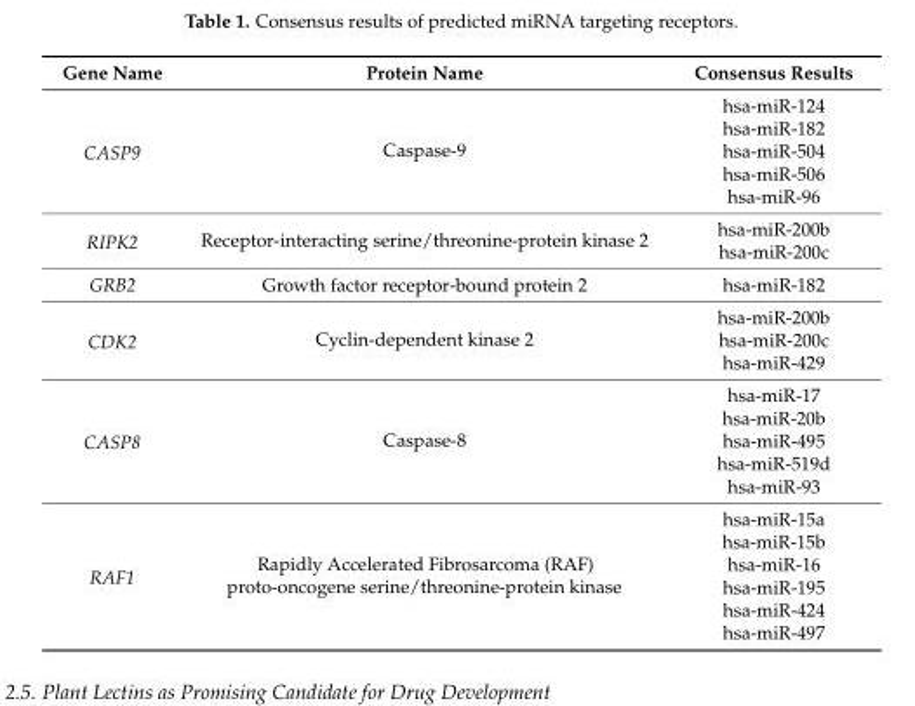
<table><thead><tr><td>Gene Name</td><td>Protein Name</td><td>Consensus Results</td></tr></thead><tbody><tr><td rowspan="5">CASP9</td><td rowspan="5">Caspase-9</td><td>hsa-miR-124</td></tr><tr><td>hsa-miR-182</td></tr><tr><td>hsa-miR-504</td></tr><tr><td>hsa-miR-506</td></tr><tr><td>hsa-miR-96</td></tr><tr><td rowspan="2">RIPK2</td><td rowspan="2">Receptor-interacting serine/threonine-protein kinase 2</td><td>hsa-miR-200b</td></tr><tr><td>hsa-miR-200c</td></tr><tr><td>GRB2</td><td>Growth factor receptor-bound protein 2</td><td>hsa-miR-182</td></tr><tr><td rowspan="3">CDK2</td><td rowspan="3">Cyclin-dependent kinase 2</td><td>hsa-miR-200b</td></tr><tr><td>hsa-miR-200c</td></tr><tr><td>hsa-miR-429</td></tr><tr><td rowspan="5">CASP8</td><td rowspan="5">Caspase-8</td><td>hsa-miR-17</td></tr><tr><td>hsa-miR-20b</td></tr><tr><td>hsa-miR-495</td></tr><tr><td>hsa-miR-519d</td></tr><tr><td>hsa-miR-93</td></tr><tr><td rowspan="6">RAF1</td><td rowspan="6">Rapidly Accelerated Fibrosarcoma (RAF) proto-oncogene serine/threonine-protein kinase</td><td>hsa-miR-15a</td></tr><tr><td>hsa-miR-15b</td></tr><tr><td>hsa-miR-16</td></tr><tr><td>hsa-miR-195</td></tr><tr><td>hsa-miR-424</td></tr><tr><td>hsa-miR-497</td></tr></tbody></table>